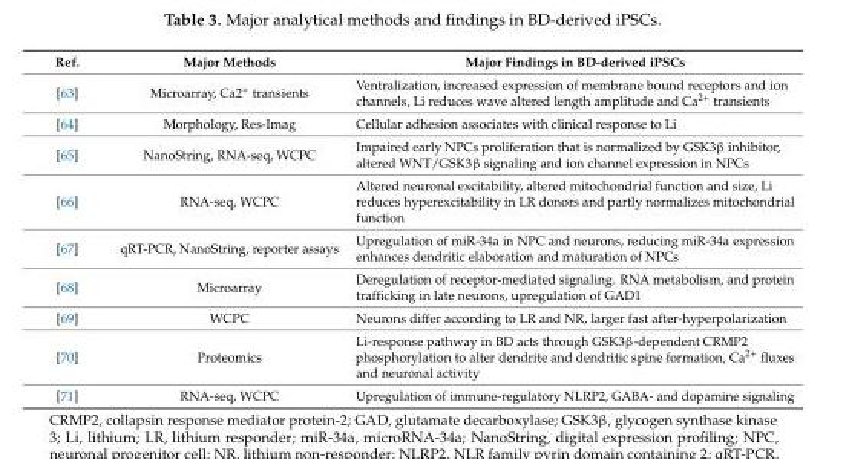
<table><thead><tr><td>Ref.</td><td>Major Methods</td><td>Major Findings in BD-derived iPSCs</td></tr></thead><tbody><tr><td>[63]</td><td>Microarray, Ca2<sup>+</sup> transients</td><td>Ventralization, increased expression of membrane bound receptors and ion channels, Li reduces wave altered length amplitude and Ca<sup>2+</sup> transients</td></tr><tr><td>[64]</td><td>Morphology, Res-Imag</td><td>Cellular adhesion associates with clinical response to Li</td></tr><tr><td>[65]</td><td>NanoString, RNA-seq, WCPC</td><td>Impaired early NPCs proliferation that is normalized by GSK3β inhibitor, altered WNT/GSK3β signaling and ion channel expression in NPCs</td></tr><tr><td>[66]</td><td>RNA-seq, WCPC</td><td>Altered neuronal excitability, altered mitochondrial function and size, Li reduces hyperexcitability in LR donors and partly normalizes mitochondrial function</td></tr><tr><td>[67]</td><td>qRT-PCR, NanoString, reporter assays</td><td>Upregulation of miR-34a in NPC and neurons, reducing miR-34a expression enhances dendritic elaboration and maturation of NPCs</td></tr><tr><td>[68]</td><td>Microarray</td><td>Deregulation of receptor-mediated signaling. RNA metabolism, and protein trafficking in late neurons, upregulation of GAD1</td></tr><tr><td>[69]</td><td>WCPC</td><td>Neurons differ according to LR and NR, larger fast after-hyperpolarization</td></tr><tr><td>[70]</td><td>Proteomics</td><td>Li-response pathway in BD acts through GSK3β-dependent CRMP2 phosphorylation to alter dendrite and dendritic spine formation, Ca<sup>2+</sup> fluxes and neuronal activity</td></tr><tr><td>[71]</td><td>RNA-seq, WCPC</td><td>Upregulation of immune-regulatory NLRP2, GABA- and dopamine signaling</td></tr></tbody></table>